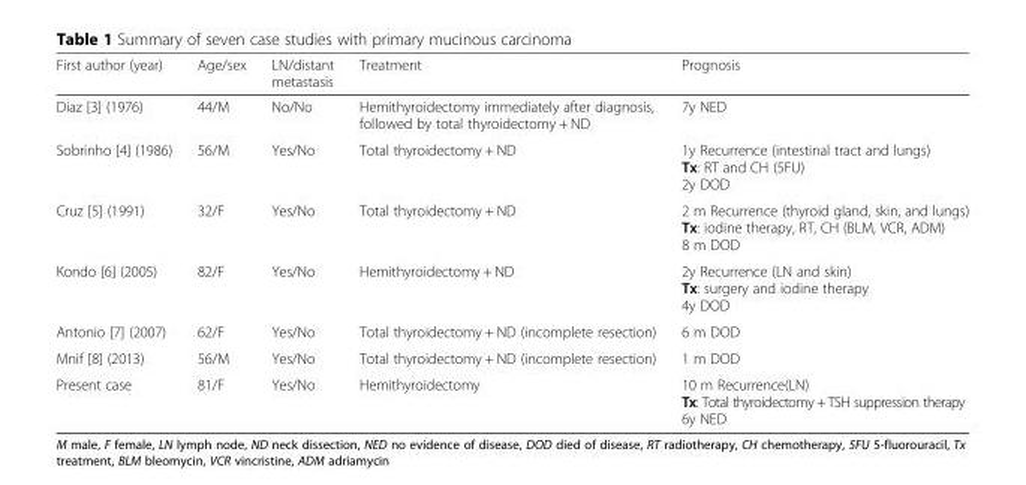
<table><thead><tr><td>First author (year)</td><td>Age/sex</td><td>LN/distant metastasis</td><td>Treatment</td><td>Prognosis</td></tr></thead><tbody><tr><td>Diaz [3] (1976)</td><td>44/M</td><td>No/No</td><td>Hemithyroidectomy immediately after diagnosis, followed by total thyroidectomy + ND</td><td>7y NED</td></tr><tr><td>Sobrinho [4] (1986)</td><td>56/M</td><td>Yes/No</td><td>Total thyroidectomy + ND</td><td>1y Recurrence (intestinal tract and lungs) Tx: RT and CH (5FU) 2y DOD</td></tr><tr><td>Cruz [5] (1991)</td><td>32/F</td><td>Yes/No</td><td>Total thyroidectomy + ND</td><td>2 m Recurrence (thyroid gland, skin, and lungs) Tx: iodine therapy, RT, CH (BLM, VCR, ADM) 8 m DOD</td></tr><tr><td>Kondo [6] (2005)</td><td>82/F</td><td>Yes/No</td><td>Hemithyroidectomy + ND</td><td>2y Recurrence (LN and skin) Tx: surgery and iodine therapy 4y DOD</td></tr><tr><td>Antonio [7] (2007)</td><td>62/F</td><td>Yes/No</td><td>Total thyroidectomy + ND (incomplete resection)</td><td>6 m DOD</td></tr><tr><td>Mnif [8] (2013)</td><td>56/M</td><td>Yes/No</td><td>Total thyroidectomy + ND (incomplete resection)</td><td>1 m DOD</td></tr><tr><td>Present case</td><td>81/F</td><td>Yes/No</td><td>Hemithyroidectomy</td><td>10 m Recurrence(LN) Tx: Total thyroidectomy + TSH suppression therapy 6y NED</td></tr></tbody></table>